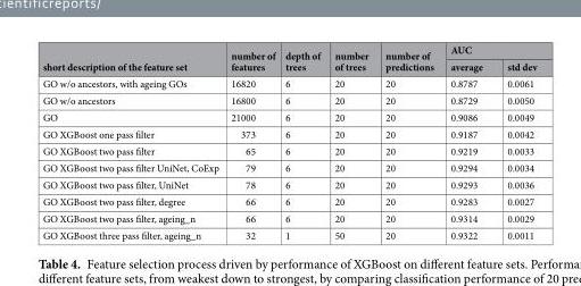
<table><thead><tr><td rowspan="2">short description of the feature set</td><td rowspan="2">number of features</td><td rowspan="2">depth of trees</td><td rowspan="2">number of trees</td><td rowspan="2">number of predictions</td><td colspan="2">AUC</td></tr><tr><td>average</td><td>std dev</td></tr></thead><tbody><tr><td>GO w/o ancestors, with ageing GOs</td><td>16820</td><td>6</td><td>20</td><td>20</td><td>0.8787</td><td>0.0061</td></tr><tr><td>GO w/o ancestors</td><td>16800</td><td>6</td><td>20</td><td>20</td><td>0.8729</td><td>0.0050</td></tr><tr><td>GO</td><td>21000</td><td>6</td><td>20</td><td>20</td><td>0.9086</td><td>0.0049</td></tr><tr><td>GO XGBoost one pass filter</td><td>373</td><td>6</td><td>20</td><td>20</td><td>0.9187</td><td>0.0042</td></tr><tr><td>GO XGBoost two pass filter</td><td>65</td><td>6</td><td>20</td><td>20</td><td>0.9219</td><td>0.0033</td></tr><tr><td>GO XGBoost two pass filter UniNet, CoExp</td><td>79</td><td>6</td><td>20</td><td>20</td><td>0.9294</td><td>0.0034</td></tr><tr><td>GO XGBoost two pass filter, UniNet</td><td>78</td><td>6</td><td>20</td><td>20</td><td>0.9293</td><td>0.0036</td></tr><tr><td>GO XGBoost two pass filter, degree</td><td>66</td><td>6</td><td>20</td><td>20</td><td>0.9283</td><td>0.0027</td></tr><tr><td>GO XGBoost two pass filter, ageing_n</td><td>66</td><td>6</td><td>20</td><td>20</td><td>0.9314</td><td>0.0029</td></tr><tr><td>GO XGBoost three pass filter, ageing_n</td><td>32</td><td>1</td><td>50</td><td>20</td><td>0.9322</td><td>0.0011</td></tr></tbody></table>